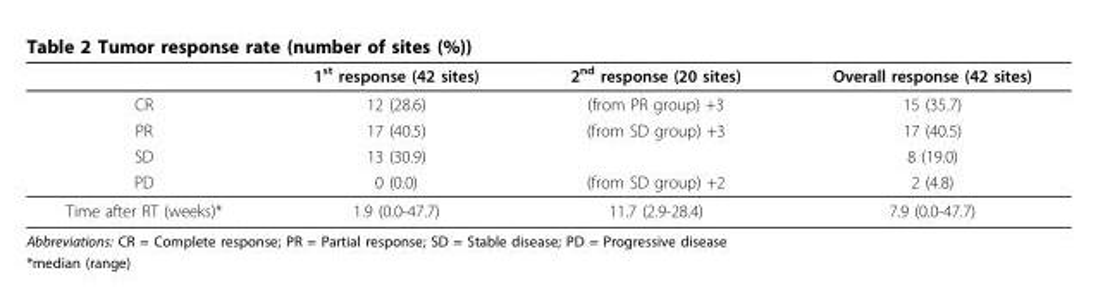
<table><thead><tr><td></td><td>1<sup>st</sup> response (42 sites)</td><td>2<sup>nd</sup> response (20 sites)</td><td>Overall response (42 sites)</td></tr></thead><tbody><tr><td>CR</td><td>12 (28.6)</td><td>(from PR group) +3</td><td>15 (35.7)</td></tr><tr><td>PR</td><td>17 (40.5)</td><td>(from SD group) +3</td><td>17 (40.5)</td></tr><tr><td>SD</td><td>13 (30.9)</td><td></td><td>8 (19.0)</td></tr><tr><td>PD</td><td>0 (0.0)</td><td>(from SD group) +2</td><td>2 (4.8)</td></tr><tr><td>Time after RT (weeks)*</td><td>1.9 (0.0-47.7)</td><td>11.7 (2.9-28.4)</td><td>7.9 (0.0-47.7)</td></tr></tbody></table>